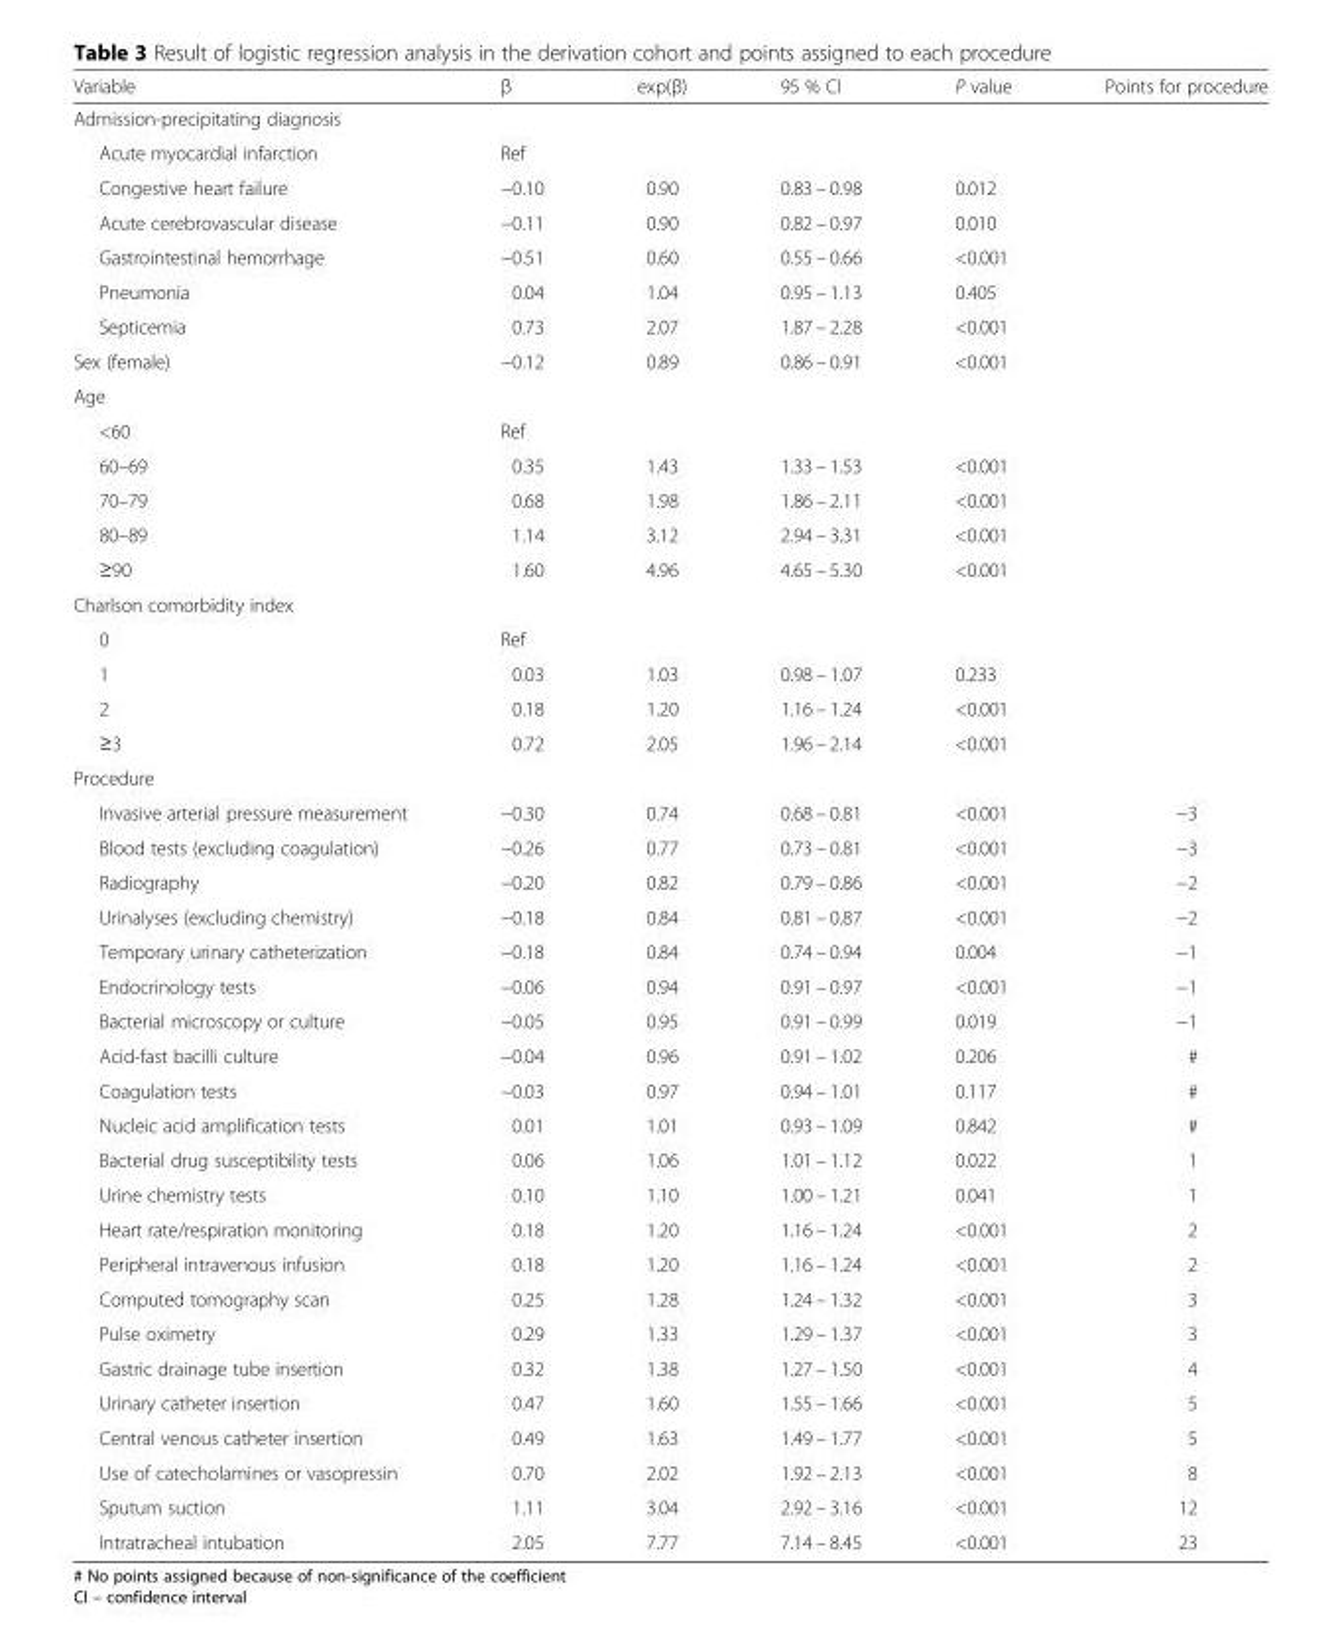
<table><thead><tr><td>Variable</td><td>β</td><td>exp(β)</td><td>95 % CI</td><td>P value</td><td>Points for procedure</td></tr></thead><tbody><tr><td colspan="6">Admission-precipitating diagnosis</td></tr><tr><td>Acute myocardial infarction</td><td>Ref</td><td></td><td></td><td></td><td></td></tr><tr><td>Congestive heart failure</td><td>−0.10</td><td>0.90</td><td>0.83 – 0.98</td><td>0.012</td><td></td></tr><tr><td>Acute cerebrovascular disease</td><td>−0.11</td><td>0.90</td><td>0.82 – 0.97</td><td>0.010</td><td></td></tr><tr><td>Gastrointestinal hemorrhage</td><td>−0.51</td><td>0.60</td><td>0.55 – 0.66</td><td>&lt;0.001</td><td></td></tr><tr><td>Pneumonia</td><td>0.04</td><td>1.04</td><td>0.95 – 1.13</td><td>0.405</td><td></td></tr><tr><td>Septicemia</td><td>0.73</td><td>2.07</td><td>1.87 – 2.28</td><td>&lt;0.001</td><td></td></tr><tr><td>Sex (female)</td><td>−0.12</td><td>0.89</td><td>0.86 – 0.91</td><td>&lt;0.001</td><td></td></tr><tr><td colspan="6">Age</td></tr><tr><td>&lt;60</td><td>Ref</td><td></td><td></td><td></td><td></td></tr><tr><td>60–69</td><td>0.35</td><td>1.43</td><td>1.33 – 1.53</td><td>&lt;0.001</td><td></td></tr><tr><td>70–79</td><td>0.68</td><td>1.98</td><td>1.86 – 2.11</td><td>&lt;0.001</td><td></td></tr><tr><td>80–89</td><td>1.14</td><td>3.12</td><td>2.94 – 3.31</td><td>&lt;0.001</td><td></td></tr><tr><td>≥90</td><td>1.60</td><td>4.96</td><td>4.65 – 5.30</td><td>&lt;0.001</td><td></td></tr><tr><td colspan="6">Charlson comorbidity index</td></tr><tr><td>0</td><td>Ref</td><td></td><td></td><td></td><td></td></tr><tr><td>1</td><td>0.03</td><td>1.03</td><td>0.98 – 1.07</td><td>0.233</td><td></td></tr><tr><td>2</td><td>0.18</td><td>1.20</td><td>1.16 – 1.24</td><td>&lt;0.001</td><td></td></tr><tr><td>≥3</td><td>0.72</td><td>2.05</td><td>1.96 – 2.14</td><td>&lt;0.001</td><td></td></tr><tr><td colspan="6">Procedure</td></tr><tr><td>Invasive arterial pressure measurement</td><td>−0.30</td><td>0.74</td><td>0.68 – 0.81</td><td>&lt;0.001</td><td>−3</td></tr><tr><td>Blood tests (excluding coagulation)</td><td>−0.26</td><td>0.77</td><td>0.73 – 0.81</td><td>&lt;0.001</td><td>−3</td></tr><tr><td>Radiography</td><td>−0.20</td><td>0.82</td><td>0.79 – 0.86</td><td>&lt;0.001</td><td>−2</td></tr><tr><td>Urinalyses (excluding chemistry)</td><td>−0.18</td><td>0.84</td><td>0.81 – 0.87</td><td>&lt;0.001</td><td>−2</td></tr><tr><td>Temporary urinary catheterization</td><td>−0.18</td><td>0.84</td><td>0.74 – 0.94</td><td>0.004</td><td>−1</td></tr><tr><td>Endocrinology tests</td><td>−0.06</td><td>0.94</td><td>0.91 – 0.97</td><td>&lt;0.001</td><td>−1</td></tr><tr><td>Bacterial microscopy or culture</td><td>−0.05</td><td>0.95</td><td>0.91 – 0.99</td><td>0.019</td><td>−1</td></tr><tr><td>Acid-fast bacilli culture</td><td>−0.04</td><td>0.96</td><td>0.91 – 1.02</td><td>0.206</td><td>#</td></tr><tr><td>Coagulation tests</td><td>−0.03</td><td>0.97</td><td>0.94 – 1.01</td><td>0.117</td><td>#</td></tr><tr><td>Nucleic acid amplification tests</td><td>0.01</td><td>1.01</td><td>0.93 – 1.09</td><td>0.842</td><td>#</td></tr><tr><td>Bacterial drug susceptibility tests</td><td>0.06</td><td>1.06</td><td>1.01 – 1.12</td><td>0.022</td><td>1</td></tr><tr><td>Urine chemistry tests</td><td>0.10</td><td>1.10</td><td>1.00 – 1.21</td><td>0.041</td><td>1</td></tr><tr><td>Heart rate/respiration monitoring</td><td>0.18</td><td>1.20</td><td>1.16 – 1.24</td><td>&lt;0.001</td><td>2</td></tr><tr><td>Peripheral intravenous infusion</td><td>0.18</td><td>1.20</td><td>1.16 – 1.24</td><td>&lt;0.001</td><td>2</td></tr><tr><td>Computed tomography scan</td><td>0.25</td><td>1.28</td><td>1.24 – 1.32</td><td>&lt;0.001</td><td>3</td></tr><tr><td>Pulse oximetry</td><td>0.29</td><td>1.33</td><td>1.29 – 1.37</td><td>&lt;0.001</td><td>3</td></tr><tr><td>Gastric drainage tube insertion</td><td>0.32</td><td>1.38</td><td>1.27 – 1.50</td><td>&lt;0.001</td><td>4</td></tr><tr><td>Urinary catheter insertion</td><td>0.47</td><td>1.60</td><td>1.55 – 1.66</td><td>&lt;0.001</td><td>5</td></tr><tr><td>Central venous catheter insertion</td><td>0.49</td><td>1.63</td><td>1.49 – 1.77</td><td>&lt;0.001</td><td>5</td></tr><tr><td>Use of catecholamines or vasopressin</td><td>0.70</td><td>2.02</td><td>1.92 – 2.13</td><td>&lt;0.001</td><td>8</td></tr><tr><td>Sputum suction</td><td>1.11</td><td>3.04</td><td>2.92 – 3.16</td><td>&lt;0.001</td><td>12</td></tr><tr><td>Intratracheal intubation</td><td>2.05</td><td>7.77</td><td>7.14 – 8.45</td><td>&lt;0.001</td><td>23</td></tr></tbody></table>